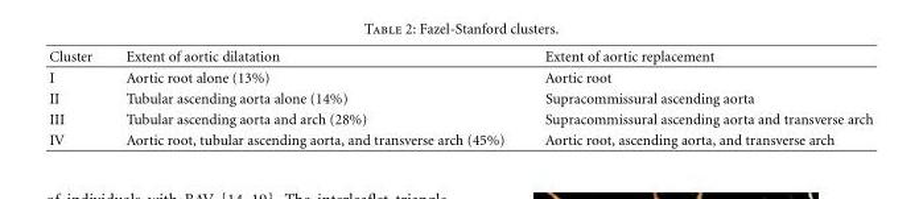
<table><thead><tr><td>Cluster</td><td>Extent of aortic dilatation</td><td>Extent of aortic replacement</td></tr></thead><tbody><tr><td>I</td><td>Aortic root alone (13%)</td><td>Aortic root</td></tr><tr><td>II</td><td>Tubular ascending aorta alone (14%)</td><td>Supracommissural ascending aorta</td></tr><tr><td>III</td><td>Tubular ascending aorta and arch (28%)</td><td>Supracommissural ascending aorta and transverse arch</td></tr><tr><td>IV</td><td>Aortic root, tubular ascending aorta, and transverse arch (45%)</td><td>Aortic root, ascending aorta, and transverse arch</td></tr></tbody></table>